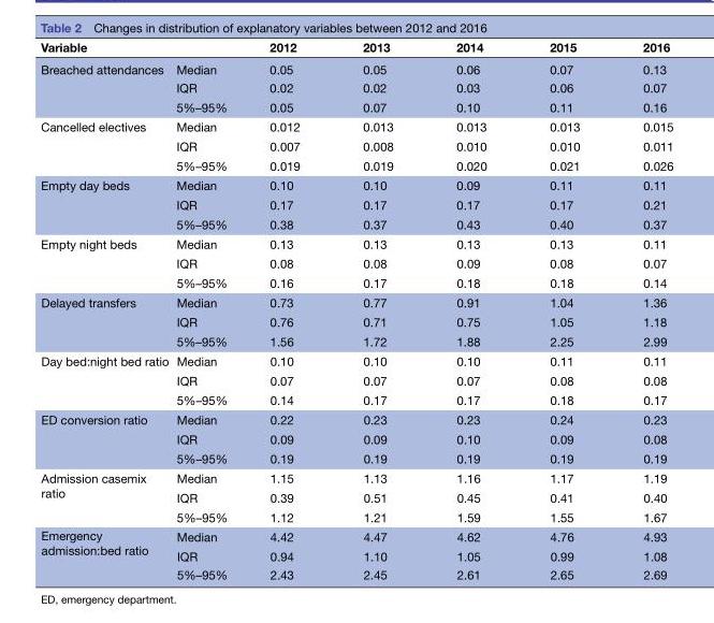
<table><thead><tr><td>Variable</td><td></td><td>2012</td><td>2013</td><td>2014</td><td>2015</td><td>2016</td></tr></thead><tbody><tr><td rowspan="3">Breached attendances</td><td>Median</td><td>0.05</td><td>0.05</td><td>0.06</td><td>0.07</td><td>0.13</td></tr><tr><td>IQR</td><td>0.02</td><td>0.02</td><td>0.03</td><td>0.06</td><td>0.07</td></tr><tr><td>5%–95%</td><td>0.05</td><td>0.07</td><td>0.10</td><td>0.11</td><td>0.16</td></tr><tr><td rowspan="3">Cancelled electives</td><td>Median</td><td>0.012</td><td>0.013</td><td>0.013</td><td>0.013</td><td>0.015</td></tr><tr><td>IQR</td><td>0.007</td><td>0.008</td><td>0.010</td><td>0.010</td><td>0.011</td></tr><tr><td>5%–95%</td><td>0.019</td><td>0.019</td><td>0.020</td><td>0.021</td><td>0.026</td></tr><tr><td rowspan="3">Empty day beds</td><td>Median</td><td>0.10</td><td>0.10</td><td>0.09</td><td>0.11</td><td>0.11</td></tr><tr><td>IQR</td><td>0.17</td><td>0.17</td><td>0.17</td><td>0.17</td><td>0.21</td></tr><tr><td>5%–95%</td><td>0.38</td><td>0.37</td><td>0.43</td><td>0.40</td><td>0.37</td></tr><tr><td rowspan="3">Empty night beds</td><td>Median</td><td>0.13</td><td>0.13</td><td>0.13</td><td>0.13</td><td>0.11</td></tr><tr><td>IQR</td><td>0.08</td><td>0.08</td><td>0.09</td><td>0.08</td><td>0.07</td></tr><tr><td>5%–95%</td><td>0.16</td><td>0.17</td><td>0.18</td><td>0.18</td><td>0.14</td></tr><tr><td rowspan="3">Delayed transfers</td><td>Median</td><td>0.73</td><td>0.77</td><td>0.91</td><td>1.04</td><td>1.36</td></tr><tr><td>IQR</td><td>0.76</td><td>0.71</td><td>0.75</td><td>1.05</td><td>1.18</td></tr><tr><td>5%–95%</td><td>1.56</td><td>1.72</td><td>1.88</td><td>2.25</td><td>2.99</td></tr><tr><td rowspan="3">Day bed:night bed ratio</td><td>Median</td><td>0.10</td><td>0.10</td><td>0.10</td><td>0.11</td><td>0.11</td></tr><tr><td>IQR</td><td>0.07</td><td>0.07</td><td>0.07</td><td>0.08</td><td>0.08</td></tr><tr><td>5%–95%</td><td>0.14</td><td>0.17</td><td>0.17</td><td>0.18</td><td>0.17</td></tr><tr><td rowspan="3">ED conversion ratio</td><td>Median</td><td>0.22</td><td>0.23</td><td>0.23</td><td>0.24</td><td>0.23</td></tr><tr><td>IQR</td><td>0.09</td><td>0.09</td><td>0.10</td><td>0.09</td><td>0.08</td></tr><tr><td>5%–95%</td><td>0.19</td><td>0.19</td><td>0.19</td><td>0.19</td><td>0.19</td></tr><tr><td rowspan="3">Admission casemix ratio</td><td>Median</td><td>1.15</td><td>1.13</td><td>1.16</td><td>1.17</td><td>1.19</td></tr><tr><td>IQR</td><td>0.39</td><td>0.51</td><td>0.45</td><td>0.41</td><td>0.40</td></tr><tr><td>5%–95%</td><td>1.12</td><td>1.21</td><td>1.59</td><td>1.55</td><td>1.67</td></tr><tr><td rowspan="3">Emergency admission:bed ratio</td><td>Median</td><td>4.42</td><td>4.47</td><td>4.62</td><td>4.76</td><td>4.93</td></tr><tr><td>IQR</td><td>0.94</td><td>1.10</td><td>1.05</td><td>0.99</td><td>1.08</td></tr><tr><td>5%–95%</td><td>2.43</td><td>2.45</td><td>2.61</td><td>2.65</td><td>2.69</td></tr></tbody></table>